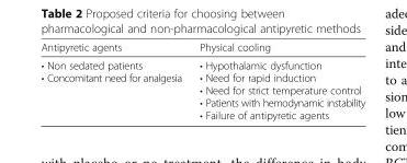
<table><thead><tr><td>Antipyretic agents</td><td>Physical cooling</td></tr></thead><tbody><tr><td>• Non sedated patients • Concomitant need for analgesia</td><td>• Hypothalamic dysfunction • Need for rapid induction • Need for strict temperature control • Patients with hemodynamic instability • Failure of antipyretic agents</td></tr></tbody></table>